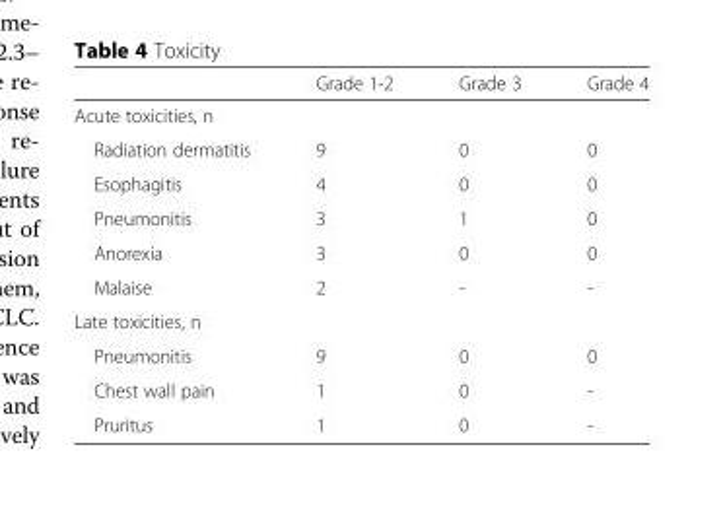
<table><thead><tr><td></td><td>Grade 1-2</td><td>Grade 3</td><td>Grade 4</td></tr></thead><tbody><tr><td colspan="4">Acute toxicities, n</td></tr><tr><td>Radiation dermatitis</td><td>9</td><td>0</td><td>0</td></tr><tr><td>Esophagitis</td><td>4</td><td>0</td><td>0</td></tr><tr><td>Pneumonitis</td><td>3</td><td>1</td><td>0</td></tr><tr><td>Anorexia</td><td>3</td><td>0</td><td>0</td></tr><tr><td>Malaise</td><td>2</td><td>-</td><td>-</td></tr><tr><td colspan="4">Late toxicities, n</td></tr><tr><td>Pneumonitis</td><td>9</td><td>0</td><td>0</td></tr><tr><td>Chest wall pain</td><td>1</td><td>0</td><td>-</td></tr><tr><td>Pruritus</td><td>1</td><td>0</td><td>-</td></tr></tbody></table>